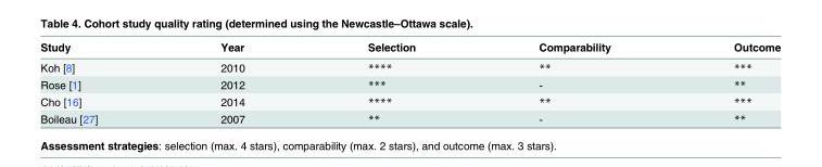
<table><thead><tr><td>Study</td><td>Year</td><td>Selection</td><td>Comparability</td><td>Outcome</td></tr></thead><tbody><tr><td>Koh [8]</td><td>2010</td><td>****</td><td>**</td><td>***</td></tr><tr><td>Rose [1]</td><td>2012</td><td>***</td><td>-</td><td>**</td></tr><tr><td>Cho [16]</td><td>2014</td><td>****</td><td>**</td><td>***</td></tr><tr><td>Boileau [27]</td><td>2007</td><td>**</td><td>-</td><td>**</td></tr></tbody></table>